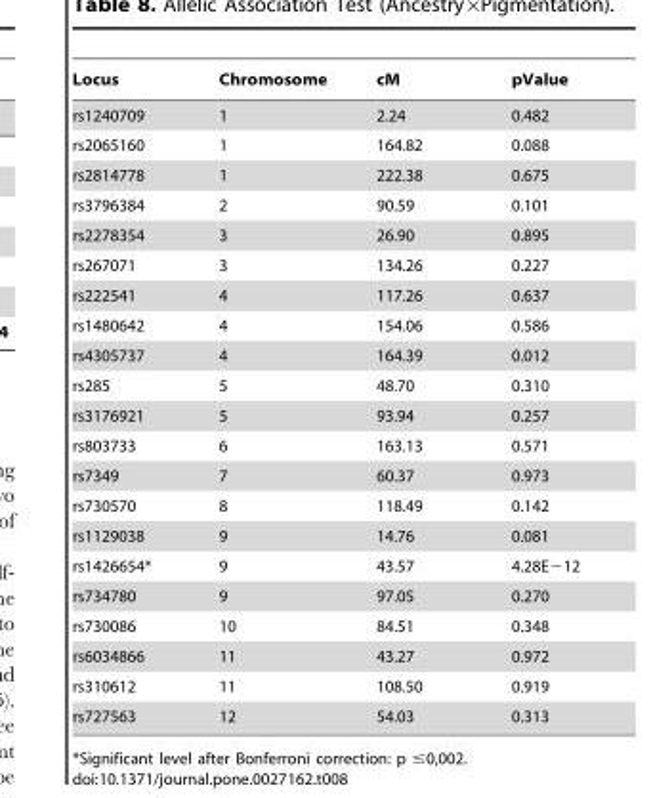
<table><thead><tr><td>Locus</td><td>Chromosome</td><td>cM</td><td>pValue</td></tr></thead><tbody><tr><td>rs1240709</td><td>1</td><td>2.24</td><td>0.482</td></tr><tr><td>rs2065160</td><td>1</td><td>164.82</td><td>0.088</td></tr><tr><td>rs2814778</td><td>1</td><td>222.38</td><td>0.675</td></tr><tr><td>rs3796384</td><td>2</td><td>90.59</td><td>0.101</td></tr><tr><td>rs2278354</td><td>3</td><td>26.90</td><td>0.895</td></tr><tr><td>rs267071</td><td>3</td><td>134.26</td><td>0.227</td></tr><tr><td>rs222541</td><td>4</td><td>117.26</td><td>0.637</td></tr><tr><td>rs1480642</td><td>4</td><td>154.06</td><td>0.586</td></tr><tr><td>rs4305737</td><td>4</td><td>164.39</td><td>0.012</td></tr><tr><td>rs285</td><td>5</td><td>48.70</td><td>0.310</td></tr><tr><td>rs3176921</td><td>5</td><td>93.94</td><td>0.257</td></tr><tr><td>rs803733</td><td>6</td><td>163.13</td><td>0.571</td></tr><tr><td>rs7349</td><td>7</td><td>60.37</td><td>0.973</td></tr><tr><td>rs730570</td><td>8</td><td>118.49</td><td>0.142</td></tr><tr><td>rs1129038</td><td>9</td><td>14.76</td><td>0.081</td></tr><tr><td>rs1426654*</td><td>9</td><td>43.57</td><td>4.28E−12</td></tr><tr><td>rs734780</td><td>9</td><td>97.05</td><td>0.270</td></tr><tr><td>rs730086</td><td>10</td><td>84.51</td><td>0.348</td></tr><tr><td>rs6034866</td><td>11</td><td>43.27</td><td>0.972</td></tr><tr><td>rs310612</td><td>11</td><td>108.50</td><td>0.919</td></tr><tr><td>rs727563</td><td>12</td><td>54.03</td><td>0.313</td></tr></tbody></table>